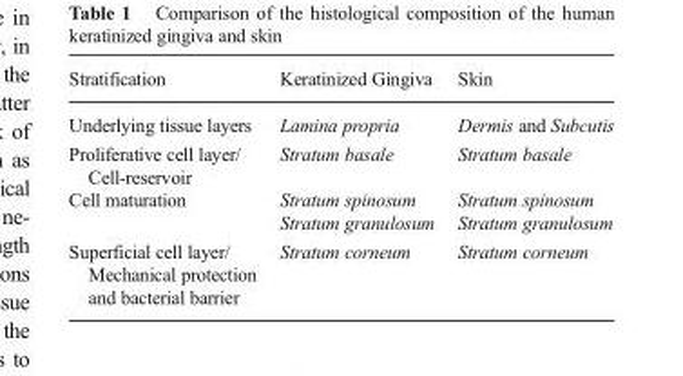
<table><thead><tr><td>Stratification</td><td>Keratinized Gingiva</td><td>Skin</td></tr></thead><tbody><tr><td>Underlying tissue layers</td><td>Lamina propria</td><td>Dermis and Subcutis</td></tr><tr><td>Proliferative cell layer/ Cell-reservoir</td><td>Stratum basale</td><td>Stratum basale</td></tr><tr><td>Cell maturation</td><td>Stratum spinosum Stratum granulosum</td><td>Stratum spinosum Stratum granulosum</td></tr><tr><td>Superficial cell layer/ Mechanical protection and bacterial barrier</td><td>Stratum corneum</td><td>Stratum corneum</td></tr></tbody></table>